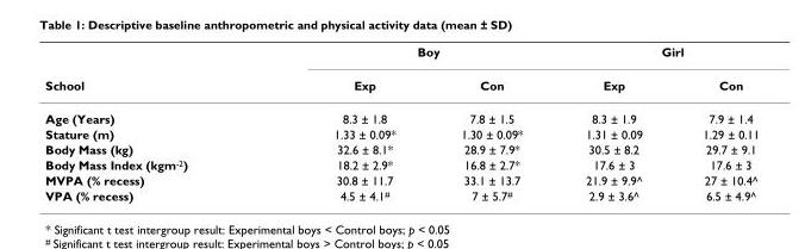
<table><thead><tr><td rowspan="2">School</td><td colspan="2">Boy</td><td colspan="2">Girl</td></tr><tr><td>Exp</td><td>Con</td><td>Exp</td><td>Con</td></tr></thead><tbody><tr><td>Age (Years)</td><td>8.3 ± 1.8</td><td>7.8 ± 1.5</td><td>8.3 ± 1.9</td><td>7.9 ± 1.4</td></tr><tr><td>Stature (m)</td><td>1.33 ± 0.09*</td><td>1.30 ± 0.09*</td><td>1.31 ± 0.09</td><td>1.29 ± 0.11</td></tr><tr><td>Body Mass (kg)</td><td>32.6 ± 8.1*</td><td>28.9 ± 7.9*</td><td>30.5 ± 8.2</td><td>29.7 ± 9.1</td></tr><tr><td>Body Mass Index (kgm<sup>-2</sup>)</td><td>18.2 ± 2.9*</td><td>16.8 ± 2.7*</td><td>17.6 ± 3</td><td>17.6 ± 3</td></tr><tr><td>MVPA (% recess)</td><td>30.8 ± 11.7</td><td>33.1 ± 13.7</td><td>21.9 ± 9.9^</td><td>27 ± 10.4^</td></tr><tr><td>VPA (% recess)</td><td>4.5 ± 4.1<sup>#</sup></td><td>7 ± 5.7<sup>#</sup></td><td>2.9 ± 3.6^</td><td>6.5 ± 4.9^</td></tr></tbody></table>